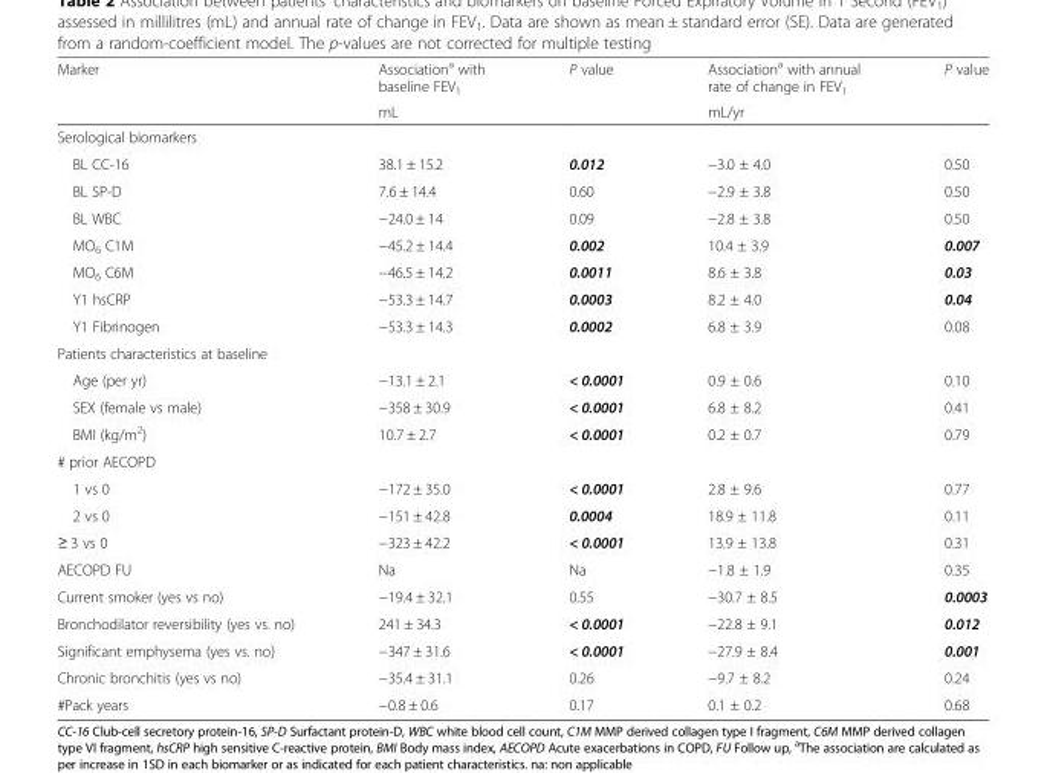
<table><thead><tr><td rowspan="2">Marker</td><td rowspan="2">Association<sup>a</sup> with baseline FEV<sub>1</sub> mL</td><td rowspan="2">P value</td><td rowspan="2">Association<sup>a</sup> with annual rate of change in FEV<sub>1</sub> mL/yr</td><td rowspan="2">P value</td></tr><tr></tr></thead><tbody><tr><td colspan="5">Serological biomarkers</td></tr><tr><td>BL CC-16</td><td>38.1 ± 15.2</td><td>0.012</td><td>−3.0 ± 4.0</td><td>0.50</td></tr><tr><td>BL SP-D</td><td>7.6 ± 14.4</td><td>0.60</td><td>−2.9 ± 3.8</td><td>0.50</td></tr><tr><td>BL WBC</td><td>−24.0 ± 14</td><td>0.09</td><td>−2.8 ± 3.8</td><td>0.50</td></tr><tr><td>MO<sub>6</sub> C1M</td><td>−45.2 ± 14.4</td><td>0.002</td><td>10.4 ± 3.9</td><td>0.007</td></tr><tr><td>MO<sub>6</sub> C6M</td><td>−46.5 ± 14.2</td><td>0.0011</td><td>8.6 ± 3.8</td><td>0.03</td></tr><tr><td>Y1 hsCRP</td><td>−53.3 ± 14.7</td><td>0.0003</td><td>8.2 ± 4.0</td><td>0.04</td></tr><tr><td>Y1 Fibrinogen</td><td>−53.3 ± 14.3</td><td>0.0002</td><td>6.8 ± 3.9</td><td>0.08</td></tr><tr><td colspan="5">Patients characteristics at baseline</td></tr><tr><td>Age (per yr)</td><td>−13.1 ± 2.1</td><td>&lt; 0.0001</td><td>0.9 ± 0.6</td><td>0.10</td></tr><tr><td>SEX (female vs male)</td><td>−358 ± 30.9</td><td>&lt; 0.0001</td><td>6.8 ± 8.2</td><td>0.41</td></tr><tr><td>BMI (kg/m<sup>2</sup>)</td><td>10.7 ± 2.7</td><td>&lt; 0.0001</td><td>0.2 ± 0.7</td><td>0.79</td></tr><tr><td colspan="5"># prior AECOPD</td></tr><tr><td>1 vs 0</td><td>−172 ± 35.0</td><td>&lt; 0.0001</td><td>2.8 ± 9.6</td><td>0.77</td></tr><tr><td>2 vs 0</td><td>−151 ± 42.8</td><td>0.0004</td><td>18.9 ± 11.8</td><td>0.11</td></tr><tr><td>≥ 3 vs 0</td><td>−323 ± 42.2</td><td>&lt; 0.0001</td><td>13.9 ± 13.8</td><td>0.31</td></tr><tr><td>AECOPD FU</td><td>Na</td><td>Na</td><td>−1.8 ± 1.9</td><td>0.35</td></tr><tr><td>Current smoker (yes vs no)</td><td>−19.4 ± 32.1</td><td>0.55</td><td>−30.7 ± 8.5</td><td>0.0003</td></tr><tr><td>Bronchodilator reversibility (yes vs. no)</td><td>241 ± 34.3</td><td>&lt; 0.0001</td><td>−22.8 ± 9.1</td><td>0.012</td></tr><tr><td>Significant emphysema (yes vs. no)</td><td>−347 ± 31.6</td><td>&lt; 0.0001</td><td>−27.9 ± 8.4</td><td>0.001</td></tr><tr><td>Chronic bronchitis (yes vs no)</td><td>−35.4 ± 31.1</td><td>0.26</td><td>−9.7 ± 8.2</td><td>0.24</td></tr><tr><td>#Pack years</td><td>−0.8 ± 0.6</td><td>0.17</td><td>0.1 ± 0.2</td><td>0.68</td></tr></tbody></table>